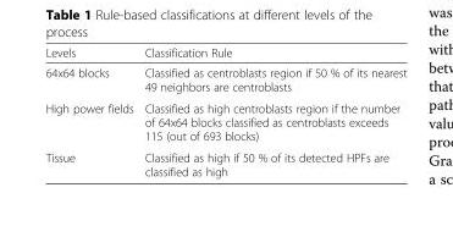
<table><thead><tr><td>Levels</td><td>Classification Rule</td></tr></thead><tbody><tr><td>64x64 blocks</td><td>Classified as centroblasts region if 50 % of its nearest 49 neighbors are centroblasts</td></tr><tr><td>High power fields</td><td>Classified as high centroblasts region if the number of 64x64 blocks classified as centroblasts exceeds 115 (out of 693 blocks)</td></tr><tr><td>Tissue</td><td>Classified as high if 50 % of its detected HPFs are classified as high</td></tr></tbody></table>